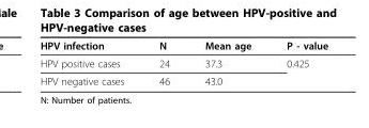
<table><thead><tr><td>HPV infection</td><td>N</td><td>Mean age</td><td>P - value</td></tr></thead><tbody><tr><td>HPV positive cases</td><td>24</td><td>37.3</td><td>0.425</td></tr><tr><td>HPV negative cases</td><td>46</td><td>43.0</td><td></td></tr></tbody></table>